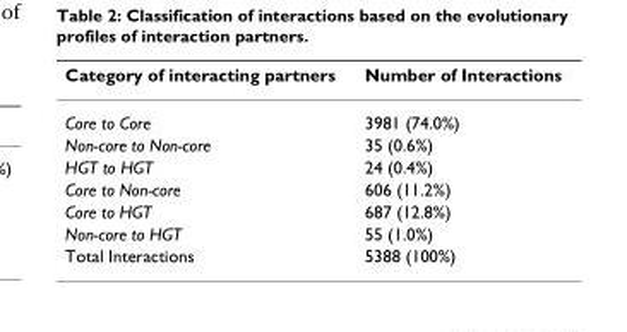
<table><thead><tr><td>Category of interacting partners</td><td>Number of Interactions</td></tr></thead><tbody><tr><td>Core to Core</td><td>3981 (74.0%)</td></tr><tr><td>Non-core to Non-core</td><td>35 (0.6%)</td></tr><tr><td>HGT to HGT</td><td>24 (0.4%)</td></tr><tr><td>Core to Non-core</td><td>606 (11.2%)</td></tr><tr><td>Core to HGT</td><td>687 (12.8%)</td></tr><tr><td>Non-core to HGT</td><td>55 (1.0%)</td></tr><tr><td>Total Interactions</td><td>5388 (100%)</td></tr></tbody></table>